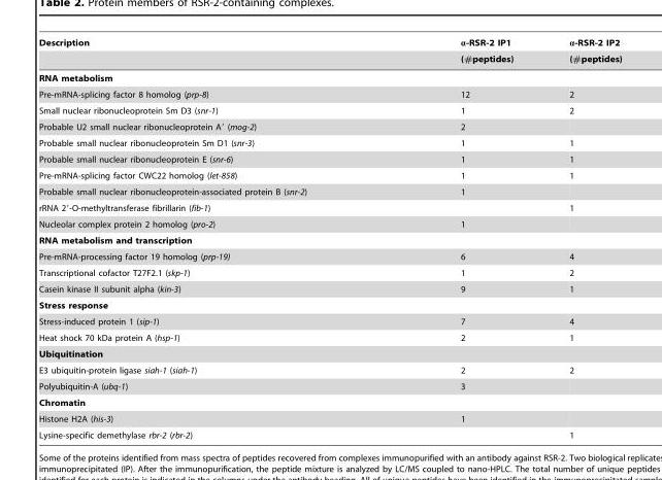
<table><thead><tr><td rowspan="2">Description</td><td rowspan="2">α-RSR-2 IP1 (#peptides)</td><td rowspan="2">α-RSR-2 IP2 (#peptides)</td></tr><tr></tr></thead><tbody><tr><td colspan="3">RNA metabolism</td></tr><tr><td>Pre-mRNA-splicing factor 8 homolog (prp-8)</td><td>12</td><td>2</td></tr><tr><td>Small nuclear ribonucleoprotein Sm D3 (snr-1)</td><td>1</td><td>2</td></tr><tr><td>Probable U2 small nuclear ribonucleoprotein A′ (mog-2)</td><td>2</td><td></td></tr><tr><td>Probable small nuclear ribonucleoprotein Sm D1 (snr-3)</td><td>1</td><td>1</td></tr><tr><td>Probable small nuclear ribonucleoprotein E (snr-6)</td><td>1</td><td>1</td></tr><tr><td>Pre-mRNA-splicing factor CWC22 homolog (let-858)</td><td>1</td><td>1</td></tr><tr><td>Probable small nuclear ribonucleoprotein-associated protein B (snr-2)</td><td>1</td><td></td></tr><tr><td>rRNA 2′-O-methyltransferase fibrillarin (fib-1)</td><td></td><td>1</td></tr><tr><td>Nucleolar complex protein 2 homolog (pro-2)</td><td>1</td><td></td></tr><tr><td colspan="3">RNA metabolism and transcription</td></tr><tr><td>Pre-mRNA-processing factor 19 homolog (prp-19)</td><td>6</td><td>4</td></tr><tr><td>Transcriptional cofactor T27F2.1 (skp-1)</td><td>1</td><td>2</td></tr><tr><td>Casein kinase II subunit alpha (kin-3)</td><td>9</td><td>1</td></tr><tr><td colspan="3">Stress response</td></tr><tr><td>Stress-induced protein 1 (sip-1)</td><td>7</td><td>4</td></tr><tr><td>Heat shock 70 kDa protein A (hsp-1)</td><td>2</td><td>1</td></tr><tr><td colspan="3">Ubiquitination</td></tr><tr><td>E3 ubiquitin-protein ligase siah-1 (siah-1)</td><td>2</td><td>2</td></tr><tr><td>Polyubiquitin-A (ubq-1)</td><td>3</td><td></td></tr><tr><td colspan="3">Chromatin</td></tr><tr><td>Histone H2A (his-3)</td><td>1</td><td></td></tr><tr><td>Lysine-specific demethylase rbr-2 (rbr-2)</td><td></td><td>1</td></tr></tbody></table>